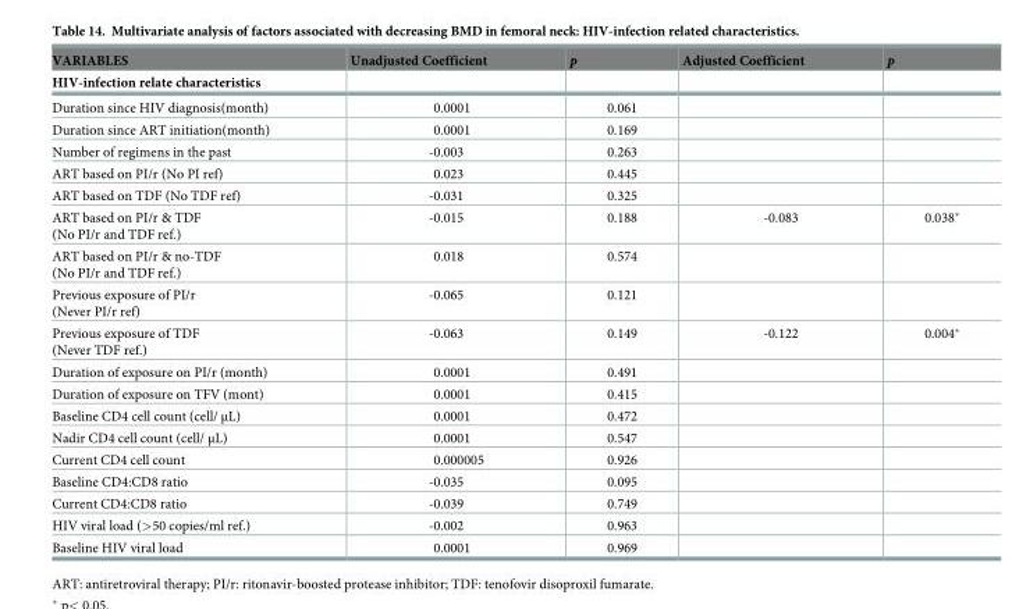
<table><thead><tr><td rowspan="2">VARIABLES HIV-infection relate characteristics</td><td rowspan="2">Unadjusted Coefficient</td><td rowspan="2">p</td><td rowspan="2">Adjusted Coefficient</td><td rowspan="2">p</td></tr><tr></tr></thead><tbody><tr><td>Duration since HIV diagnosis(month)</td><td>0.0001</td><td>0.061</td><td></td><td></td></tr><tr><td>Duration since ART initiation(month)</td><td>0.0001</td><td>0.169</td><td></td><td></td></tr><tr><td>Number of regimens in the past</td><td>-0.003</td><td>0.263</td><td></td><td></td></tr><tr><td>ART based on PI/r (No PI ref)</td><td>0.023</td><td>0.445</td><td></td><td></td></tr><tr><td>ART based on TDF (No TDF ref)</td><td>-0.031</td><td>0.325</td><td></td><td></td></tr><tr><td>ART based on PI/r &amp; TDF (No PI/r and TDF ref.)</td><td>-0.015</td><td>0.188</td><td>-0.083</td><td>0.038*</td></tr><tr><td>ART based on PI/r &amp; no-TDF (No PI/r and TDF ref.)</td><td>0.018</td><td>0.574</td><td></td><td></td></tr><tr><td>Previous exposure of PI/r (Never PI/r ref)</td><td>-0.065</td><td>0.121</td><td></td><td></td></tr><tr><td>Previous exposure of TDF (Never TDF ref.)</td><td>-0.063</td><td>0.149</td><td>-0.122</td><td>0.004*</td></tr><tr><td>Duration of exposure on PI/r (month)</td><td>0.0001</td><td>0.491</td><td></td><td></td></tr><tr><td>Duration of exposure on TFV (mont)</td><td>0.0001</td><td>0.415</td><td></td><td></td></tr><tr><td>Baseline CD4 cell count (cell/ μL)</td><td>0.0001</td><td>0.472</td><td></td><td></td></tr><tr><td>Nadir CD4 cell count (cell/ μL)</td><td>0.0001</td><td>0.547</td><td></td><td></td></tr><tr><td>Current CD4 cell count</td><td>0.000005</td><td>0.926</td><td></td><td></td></tr><tr><td>Baseline CD4:CD8 ratio</td><td>-0.035</td><td>0.095</td><td></td><td></td></tr><tr><td>Current CD4:CD8 ratio</td><td>-0.039</td><td>0.749</td><td></td><td></td></tr><tr><td>HIV viral load (&gt;50 copies/ml ref.)</td><td>-0.002</td><td>0.963</td><td></td><td></td></tr><tr><td>Baseline HIV viral load</td><td>0.0001</td><td>0.969</td><td></td><td></td></tr></tbody></table>